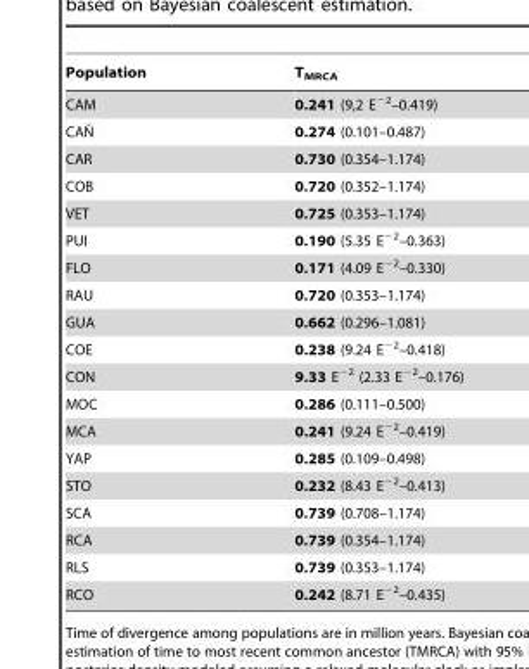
<table><thead><tr><td>Population</td><td>T<sub>MRCA</sub></td></tr></thead><tbody><tr><td>CAM</td><td>0.241 (9,2 E<sup>−2</sup>–0.419)</td></tr><tr><td>CAN˜</td><td>0.274 (0.101–0.487)</td></tr><tr><td>CAR</td><td>0.730 (0.354–1.174)</td></tr><tr><td>COB</td><td>0.720 (0.352–1.174)</td></tr><tr><td>VET</td><td>0.725 (0.353–1.174)</td></tr><tr><td>PUI</td><td>0.190 (5.35 E<sup>−2</sup>–0.363)</td></tr><tr><td>FLO</td><td>0.171 (4.09 E<sup>−2</sup>–0.330)</td></tr><tr><td>RAU</td><td>0.720 (0.353–1.174)</td></tr><tr><td>GUA</td><td>0.662 (0.296–1.081)</td></tr><tr><td>COE</td><td>0.238 (9.24 E<sup>−2</sup>–0.418)</td></tr><tr><td>CON</td><td>9.33 E<sup>−2</sup> (2.33 E<sup>−2</sup>–0.176)</td></tr><tr><td>MOC</td><td>0.286 (0.111–0.500)</td></tr><tr><td>MCA</td><td>0.241 (9.24 E<sup>−2</sup>–0.419)</td></tr><tr><td>YAP</td><td>0.285 (0.109–0.498)</td></tr><tr><td>STO</td><td>0.232 (8.43 E<sup>−2</sup>–0.413)</td></tr><tr><td>SCA</td><td>0.739 (0.708–1.174)</td></tr><tr><td>RCA</td><td>0.739 (0.354–1.174)</td></tr><tr><td>RLS</td><td>0.739 (0.353–1.174)</td></tr><tr><td>RCO</td><td>0.242 (8.71 E<sup>−2</sup>–0.435)</td></tr></tbody></table>